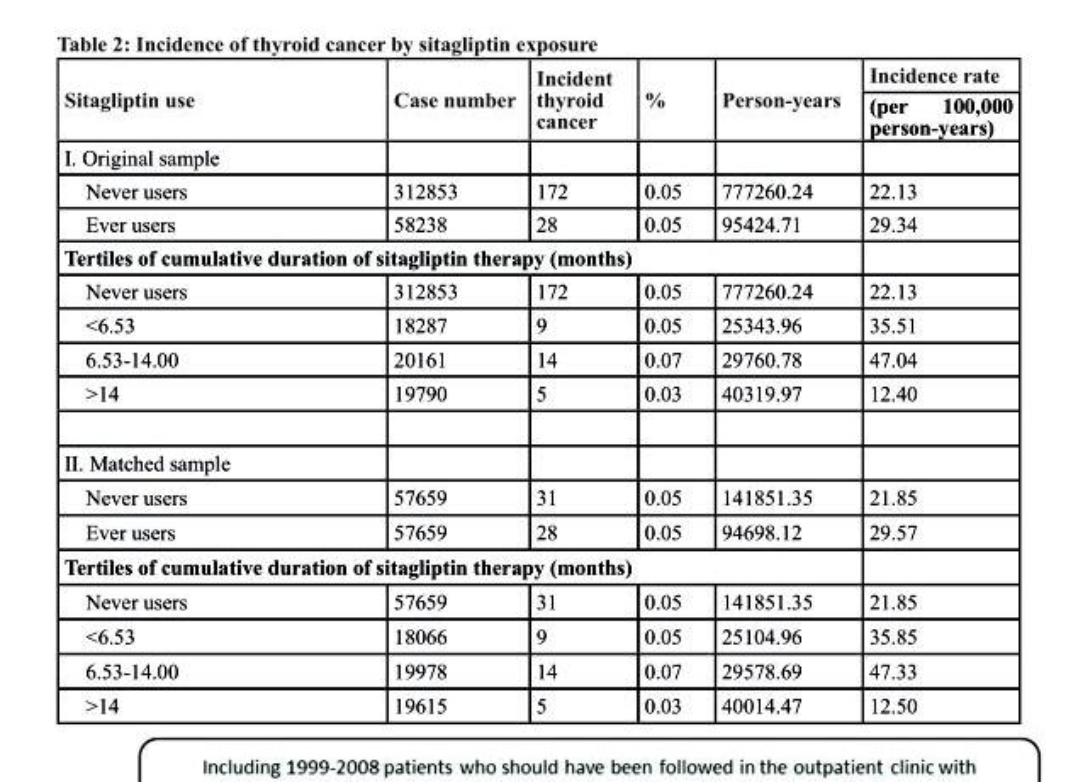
<table><thead><tr><td rowspan="2">sitagliptin use</td><td rowspan="2">case number</td><td rowspan="2">Incident thyroid cancer</td><td rowspan="2">%</td><td rowspan="2">Person-years</td><td rowspan="2">Incidence rate (per 100,000 person-years)</td></tr><tr></tr></thead><tbody><tr><td colspan="6">I. Original sample</td></tr><tr><td>Never users</td><td>312853</td><td>172</td><td>0.05</td><td>777260.24</td><td>22.13</td></tr><tr><td>Ever users</td><td>58238</td><td>28</td><td>0.05</td><td>95424.71</td><td>29.34</td></tr><tr><td colspan="6">tertiles of cumulative duration of sitagliptin therapy (months)</td></tr><tr><td>Never users</td><td>312853</td><td>172</td><td>0.05</td><td>777260.24</td><td>22.13</td></tr><tr><td>&lt;6.53</td><td>18287</td><td>9</td><td>0.05</td><td>25343.96</td><td>35.51</td></tr><tr><td>6.53-14.00</td><td>20161</td><td>14</td><td>0.07</td><td>29760.78</td><td>47.04</td></tr><tr><td>&gt;14</td><td>19790</td><td>5</td><td>0.03</td><td>40319.97</td><td>12.40</td></tr><tr><td colspan="6">II. Matched sample</td></tr><tr><td>Never users</td><td>57659</td><td>31</td><td>0.05</td><td>141851.35</td><td>21.85</td></tr><tr><td>Ever users</td><td>57659</td><td>28</td><td>0.05</td><td>94698.12</td><td>29.57</td></tr><tr><td colspan="6">tertiles of cumulative duration of sitagliptin therapy (months)</td></tr><tr><td>Never users</td><td>57659</td><td>31</td><td>0.05</td><td>141851.35</td><td>21.85</td></tr><tr><td>&lt;6.53</td><td>18066</td><td>9</td><td>0.05</td><td>25104.96</td><td>35.85</td></tr><tr><td>6.53-14.00</td><td>19978</td><td>14</td><td>0.07</td><td>29578.69</td><td>47.33</td></tr><tr><td>&gt;14</td><td>19615</td><td>5</td><td>0.03</td><td>40014.47</td><td>12.50</td></tr></tbody></table>